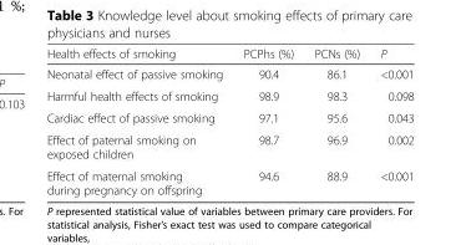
<table><thead><tr><td>Health effects of smoking</td><td>PCPhs (%)</td><td>PCNs (%)</td><td>P</td></tr></thead><tbody><tr><td>Neonatal effect of passive smoking</td><td>90.4</td><td>86.1</td><td>&lt;0.001</td></tr><tr><td>Harmful health effects of smoking</td><td>98.9</td><td>98.3</td><td>0.098</td></tr><tr><td>Cardiac effect of passive smoking</td><td>97.1</td><td>95.6</td><td>0.043</td></tr><tr><td>Effect of paternal smoking on exposed children</td><td>98.7</td><td>96.9</td><td>0.002</td></tr><tr><td>Effect of maternal smoking during pregnancy on offspring</td><td>94.6</td><td>88.9</td><td>&lt;0.001</td></tr></tbody></table>